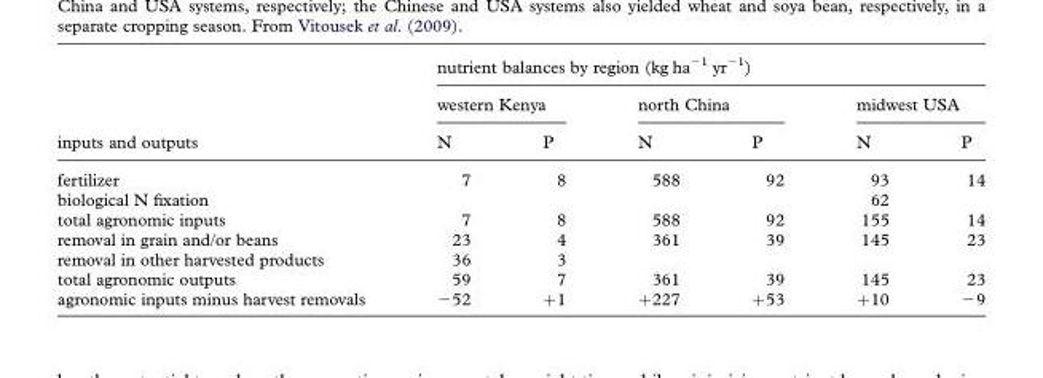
<table><thead><tr><td rowspan="3">inputs and outputs</td><td colspan="6">nutrient balances by region (kg ha<sup>−1</sup> yr<sup>−1</sup>)</td></tr><tr><td colspan="2">western Kenya</td><td colspan="2">north China</td><td colspan="2">midwest USA</td></tr><tr><td>N</td><td>P</td><td>N</td><td>P</td><td>N</td><td>P</td></tr></thead><tbody><tr><td>fertilizer</td><td>7</td><td>8</td><td>588</td><td>92</td><td>93</td><td>14</td></tr><tr><td>biological N fixation</td><td></td><td></td><td></td><td></td><td colspan="2">62</td></tr><tr><td>total agronomic inputs</td><td>7</td><td>8</td><td>588</td><td>92</td><td>155</td><td>14</td></tr><tr><td>removal in grain and/or beans</td><td>23</td><td>4</td><td>361</td><td>39</td><td>145</td><td>23</td></tr><tr><td>removal in other harvested products</td><td>36</td><td>3</td><td></td><td></td><td></td><td></td></tr><tr><td>total agronomic outputs</td><td>59</td><td>7</td><td>361</td><td>39</td><td>145</td><td>23</td></tr><tr><td>agronomic inputs minus harvest removals</td><td>−52</td><td>+1</td><td>+227</td><td>+53</td><td>+10</td><td>−9</td></tr></tbody></table>